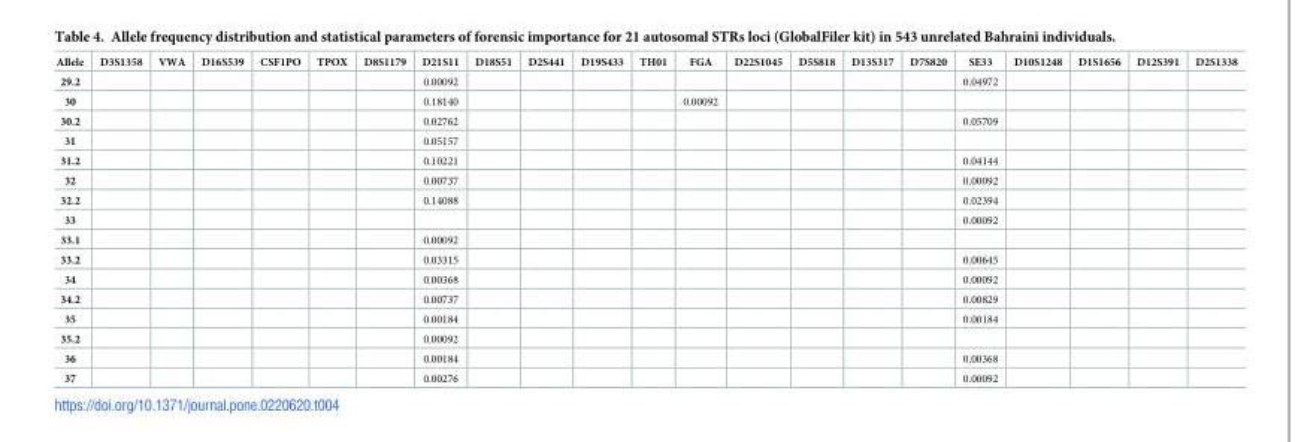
<table><thead><tr><td>Allele</td><td>D3S1358</td><td>VWA</td><td>D16S539</td><td>CSF1PO</td><td>TPOX</td><td>D8S1179</td><td>D21S11</td><td>D18S51</td><td>D2S441</td><td>D19S433</td><td>TH01</td><td>FGA</td><td>D22S1045</td><td>D5S818</td><td>D13S317</td><td>D7S820</td><td>SE33</td><td>D10S1248</td><td>D1S1656</td><td>D12S391</td><td>D2S1338</td></tr></thead><tbody><tr><td>29.2</td><td></td><td></td><td></td><td></td><td></td><td></td><td>0.00092</td><td></td><td></td><td></td><td></td><td></td><td></td><td></td><td></td><td></td><td>0.04972</td><td></td><td></td><td></td><td></td></tr><tr><td>30</td><td></td><td></td><td></td><td></td><td></td><td></td><td>0.18140</td><td></td><td></td><td></td><td></td><td>0.00092</td><td></td><td></td><td></td><td></td><td></td><td></td><td></td><td></td><td></td></tr><tr><td>30.2</td><td></td><td></td><td></td><td></td><td></td><td></td><td>0.02762</td><td></td><td></td><td></td><td></td><td></td><td></td><td></td><td></td><td></td><td>0.05709</td><td></td><td></td><td></td><td></td></tr><tr><td>31</td><td></td><td></td><td></td><td></td><td></td><td></td><td>0.05157</td><td></td><td></td><td></td><td></td><td></td><td></td><td></td><td></td><td></td><td></td><td></td><td></td><td></td><td></td></tr><tr><td>31.2</td><td></td><td></td><td></td><td></td><td></td><td></td><td>0.10221</td><td></td><td></td><td></td><td></td><td></td><td></td><td></td><td></td><td></td><td>0.04144</td><td></td><td></td><td></td><td></td></tr><tr><td>32</td><td></td><td></td><td></td><td></td><td></td><td></td><td>0.00737</td><td></td><td></td><td></td><td></td><td></td><td></td><td></td><td></td><td></td><td>0.00092</td><td></td><td></td><td></td><td></td></tr><tr><td>32.2</td><td></td><td></td><td></td><td></td><td></td><td></td><td>0.14088</td><td></td><td></td><td></td><td></td><td></td><td></td><td></td><td></td><td></td><td>0.02394</td><td></td><td></td><td></td><td></td></tr><tr><td>33</td><td></td><td></td><td></td><td></td><td></td><td></td><td></td><td></td><td></td><td></td><td></td><td></td><td></td><td></td><td></td><td></td><td>0.00092</td><td></td><td></td><td></td><td></td></tr><tr><td>33.1</td><td></td><td></td><td></td><td></td><td></td><td></td><td>0.00092</td><td></td><td></td><td></td><td></td><td></td><td></td><td></td><td></td><td></td><td></td><td></td><td></td><td></td><td></td></tr><tr><td>33.2</td><td></td><td></td><td></td><td></td><td></td><td></td><td>0.03315</td><td></td><td></td><td></td><td></td><td></td><td></td><td></td><td></td><td></td><td>0.00645</td><td></td><td></td><td></td><td></td></tr><tr><td>34</td><td></td><td></td><td></td><td></td><td></td><td></td><td>0.00368</td><td></td><td></td><td></td><td></td><td></td><td></td><td></td><td></td><td></td><td>0.00092</td><td></td><td></td><td></td><td></td></tr><tr><td>34.2</td><td></td><td></td><td></td><td></td><td></td><td></td><td>0.00737</td><td></td><td></td><td></td><td></td><td></td><td></td><td></td><td></td><td></td><td>0.00829</td><td></td><td></td><td></td><td></td></tr><tr><td>35</td><td></td><td></td><td></td><td></td><td></td><td></td><td>0.00184</td><td></td><td></td><td></td><td></td><td></td><td></td><td></td><td></td><td></td><td>0.00184</td><td></td><td></td><td></td><td></td></tr><tr><td>35.2</td><td></td><td></td><td></td><td></td><td></td><td></td><td>0.00092</td><td></td><td></td><td></td><td></td><td></td><td></td><td></td><td></td><td></td><td></td><td></td><td></td><td></td><td></td></tr><tr><td>36</td><td></td><td></td><td></td><td></td><td></td><td></td><td>0.00184</td><td></td><td></td><td></td><td></td><td></td><td></td><td></td><td></td><td></td><td>0.00368</td><td></td><td></td><td></td><td></td></tr><tr><td>37</td><td></td><td></td><td></td><td></td><td></td><td></td><td>0.00276</td><td></td><td></td><td></td><td></td><td></td><td></td><td></td><td></td><td></td><td>0.00092</td><td></td><td></td><td></td><td></td></tr></tbody></table>